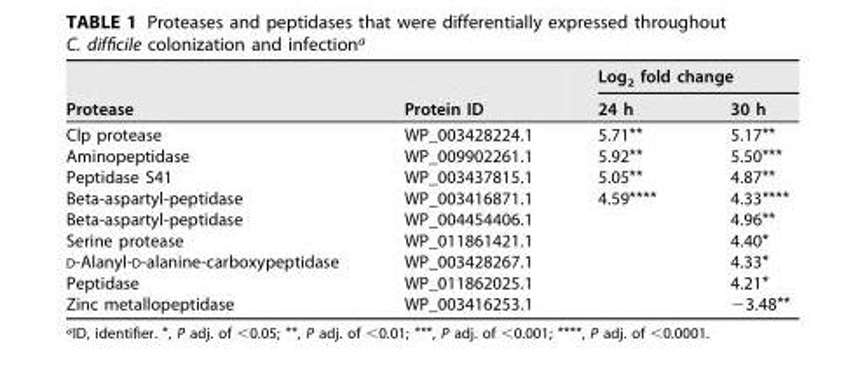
<table><thead><tr><td rowspan="2">Protease</td><td rowspan="2">Protein ID</td><td colspan="2">Log<sub>2</sub> fold change</td></tr><tr><td>24 h</td><td>30 h</td></tr></thead><tbody><tr><td>Clp protease</td><td>WP_003428224.1</td><td>5.71**</td><td>5.17**</td></tr><tr><td>Aminopeptidase</td><td>WP_009902261.1</td><td>5.92**</td><td>5.50***</td></tr><tr><td>Peptidase S41</td><td>WP_003437815.1</td><td>5.05**</td><td>4.87**</td></tr><tr><td>Beta-aspartyl-peptidase</td><td>WP_003416871.1</td><td>4.59****</td><td>4.33****</td></tr><tr><td>Beta-aspartyl-peptidase</td><td>WP_004454406.1</td><td></td><td>4.96**</td></tr><tr><td>Serine protease</td><td>WP_011861421.1</td><td></td><td>4.40*</td></tr><tr><td>D-Alanyl-D-alanine-carboxypeptidase</td><td>WP_003428267.1</td><td></td><td>4.33*</td></tr><tr><td>Peptidase</td><td>WP_011862025.1</td><td></td><td>4.21*</td></tr><tr><td>Zinc metallopeptidase</td><td>WP_003416253.1</td><td></td><td>−3.48**</td></tr></tbody></table>